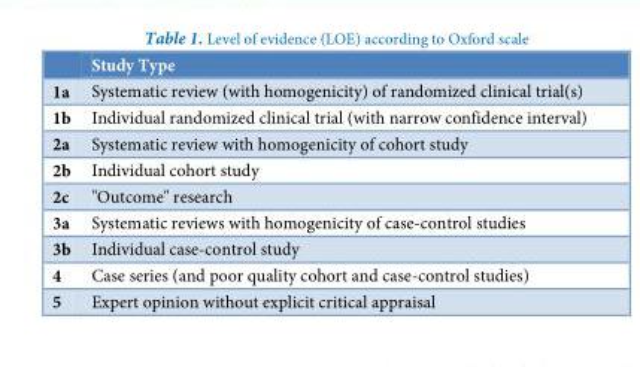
<table><thead><tr><td></td><td>Study Type</td></tr></thead><tbody><tr><td>1a</td><td>Systematic review (with homogenicity) of randomized clinical trial(s)</td></tr><tr><td>1b</td><td>Individual randomized clinical trial (with narrow confidence interval)</td></tr><tr><td>2a</td><td>Systematic review with homogenicity of cohort study</td></tr><tr><td>2b</td><td>Individual cohort study</td></tr><tr><td>2c</td><td>&quot;Outcome&quot; research</td></tr><tr><td>3a</td><td>Systematic reviews with homogenicity of case-control studies</td></tr><tr><td>3b</td><td>Individual case-control study</td></tr><tr><td>4</td><td>Case series (and poor quality cohort and case-control studies)</td></tr><tr><td>5</td><td>Expert opinion without explicit critical appraisal</td></tr></tbody></table>